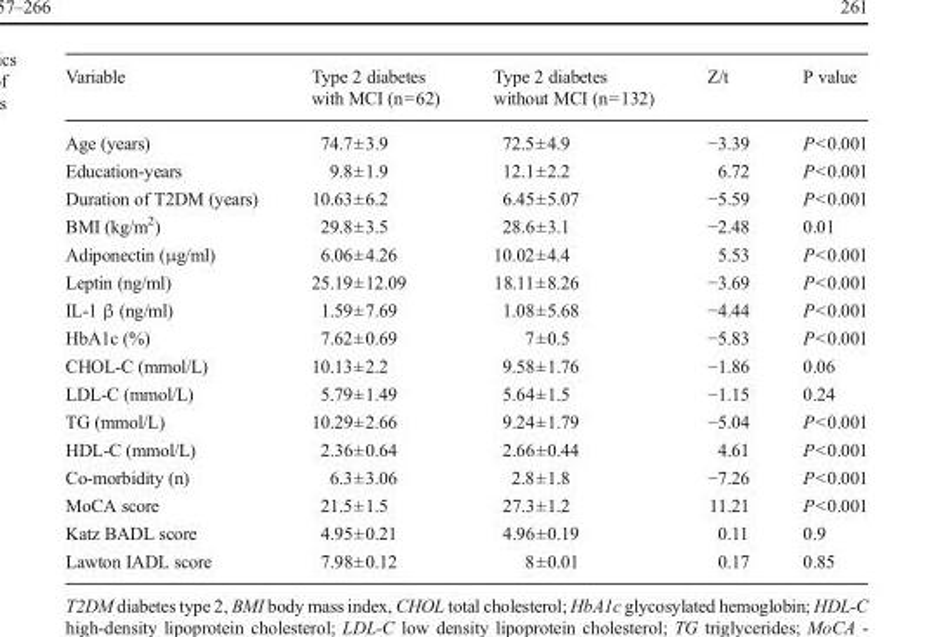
<table><thead><tr><td>Variable</td><td>Type 2 diabetes with MCI (n=62)</td><td>Type 2 diabetes without MCI (n=132)</td><td>Z/t</td><td>P value</td></tr></thead><tbody><tr><td>Age (years)</td><td>74.7±3.9</td><td>72.5±4.9</td><td>−3.39</td><td>P&lt;0.001</td></tr><tr><td>Education-years</td><td>9.8±1.9</td><td>12.1±2.2</td><td>6.72</td><td>P&lt;0.001</td></tr><tr><td>Duration of T2DM (years)</td><td>10.63±6.2</td><td>6.45±5.07</td><td>−5.59</td><td>P&lt;0.001</td></tr><tr><td>BMI (kg/m<sup>2</sup>)</td><td>29.8±3.5</td><td>28.6±3.1</td><td>−2.48</td><td>0.01</td></tr><tr><td>Adiponectin (μg/ml)</td><td>6.06±4.26</td><td>10.02±4.4</td><td>5.53</td><td>P&lt;0.001</td></tr><tr><td>Leptin (ng/ml)</td><td>25.19±12.09</td><td>18.11±8.26</td><td>−3.69</td><td>P&lt;0.001</td></tr><tr><td>IL-1 β (ng/ml)</td><td>1.59±7.69</td><td>1.08±5.68</td><td>−4.44</td><td>P&lt;0.001</td></tr><tr><td>HbA1c (%)</td><td>7.62±0.69</td><td>7±0.5</td><td>−5.83</td><td>P&lt;0.001</td></tr><tr><td>CHOL-C (mmol/L)</td><td>10.13±2.2</td><td>9.58±1.76</td><td>−1.86</td><td>0.06</td></tr><tr><td>LDL-C (mmol/L)</td><td>5.79±1.49</td><td>5.64±1.5</td><td>−1.15</td><td>0.24</td></tr><tr><td>TG (mmol/L)</td><td>10.29±2.66</td><td>9.24±1.79</td><td>−5.04</td><td>P&lt;0.001</td></tr><tr><td>HDL-C (mmol/L)</td><td>2.36±0.64</td><td>2.66±0.44</td><td>4.61</td><td>P&lt;0.001</td></tr><tr><td>Co-morbidity (n)</td><td>6.3±3.06</td><td>2.8±1.8</td><td>−7.26</td><td>P&lt;0.001</td></tr><tr><td>MoCA score</td><td>21.5±1.5</td><td>27.3±1.2</td><td>11.21</td><td>P&lt;0.001</td></tr><tr><td>Katz BADL score</td><td>4.95±0.21</td><td>4.96±0.19</td><td>0.11</td><td>0.9</td></tr><tr><td>Lawton IADL score</td><td>7.98±0.12</td><td>8±0.01</td><td>0.17</td><td>0.85</td></tr></tbody></table>